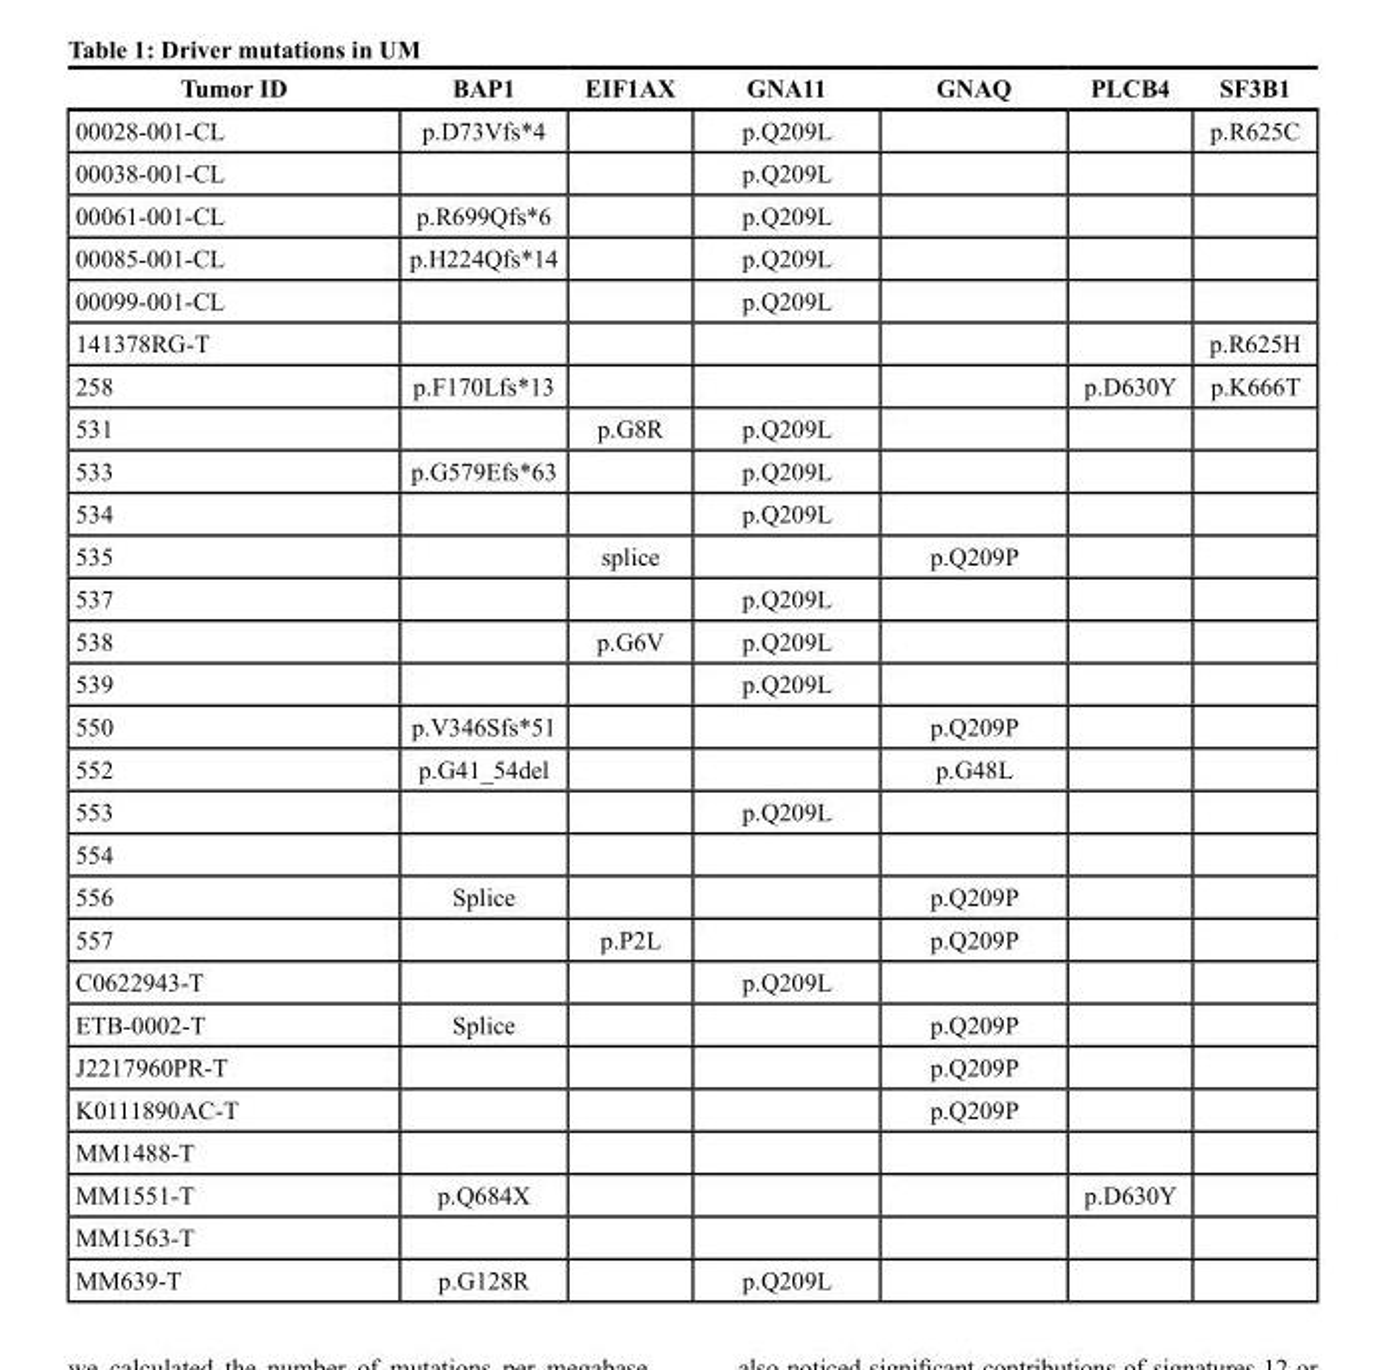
<table><thead><tr><td>Tumor ID</td><td>BAP1</td><td>EIF1AX</td><td>GNA11</td><td>GNAQ</td><td>PLCB4</td><td>SF3B1</td></tr></thead><tbody><tr><td>00028-001-CL</td><td>p.D73Vfs*4</td><td></td><td>p.Q209L</td><td></td><td></td><td>p.R625C</td></tr><tr><td>00038-001-CL</td><td></td><td></td><td>p.Q209L</td><td></td><td></td><td></td></tr><tr><td>00061-001-CL</td><td>p.R699Qfs*6</td><td></td><td>p.Q209L</td><td></td><td></td><td></td></tr><tr><td>00085-001-CL</td><td>p.H224Qfs*14</td><td></td><td>p.Q209L</td><td></td><td></td><td></td></tr><tr><td>00099-001-CL</td><td></td><td></td><td>p.Q209L</td><td></td><td></td><td></td></tr><tr><td>141378RG-T</td><td></td><td></td><td></td><td></td><td></td><td>p.R625H</td></tr><tr><td>258</td><td>p.F170Lfs*13</td><td></td><td></td><td></td><td>p.D630Y</td><td>p.K666T</td></tr><tr><td>531</td><td></td><td>p.G8R</td><td>p.Q209L</td><td></td><td></td><td></td></tr><tr><td>533</td><td>p.G579Efs*63</td><td></td><td>p.Q209L</td><td></td><td></td><td></td></tr><tr><td>534</td><td></td><td></td><td>p.Q209L</td><td></td><td></td><td></td></tr><tr><td>535</td><td></td><td>splice</td><td></td><td>p.Q209P</td><td></td><td></td></tr><tr><td>537</td><td></td><td></td><td>p.Q209L</td><td></td><td></td><td></td></tr><tr><td>538</td><td></td><td>p.G6V</td><td>p.Q209L</td><td></td><td></td><td></td></tr><tr><td>539</td><td></td><td></td><td>p.Q209L</td><td></td><td></td><td></td></tr><tr><td>550</td><td>p.V346Sfs*51</td><td></td><td></td><td>p.Q209P</td><td></td><td></td></tr><tr><td>552</td><td>p.G41_54del</td><td></td><td></td><td>p.G48L</td><td></td><td></td></tr><tr><td>553</td><td></td><td></td><td>p.Q209L</td><td></td><td></td><td></td></tr><tr><td colspan="7">554</td></tr><tr><td>556</td><td>Splice</td><td></td><td></td><td>p.Q209P</td><td></td><td></td></tr><tr><td>557</td><td></td><td>p.P2L</td><td></td><td>p.Q209P</td><td></td><td></td></tr><tr><td>C0622943-T</td><td></td><td></td><td>p.Q209L</td><td></td><td></td><td></td></tr><tr><td>ETB-0002-T</td><td>Splice</td><td></td><td></td><td>p.Q209P</td><td></td><td></td></tr><tr><td>J2217960PR-T</td><td></td><td></td><td></td><td>p.Q209P</td><td></td><td></td></tr><tr><td>K0111890AC-T</td><td></td><td></td><td></td><td>p.Q209P</td><td></td><td></td></tr><tr><td colspan="7">MM1488-T</td></tr><tr><td>MM1551-T</td><td>p.Q684X</td><td></td><td></td><td></td><td>p.D630Y</td><td></td></tr><tr><td colspan="7">MM1563-T</td></tr><tr><td>MM639-T</td><td>p.G128R</td><td></td><td>p.Q209L</td><td></td><td></td><td></td></tr></tbody></table>